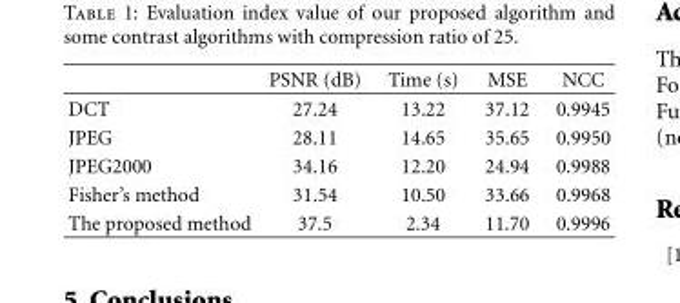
<table><thead><tr><td></td><td>PSNR (dB)</td><td>Time (s)</td><td>MSE</td><td>NCC</td></tr></thead><tbody><tr><td>DCT</td><td>27.24</td><td>13.22</td><td>37.12</td><td>0.9945</td></tr><tr><td>JPEG</td><td>28.11</td><td>14.65</td><td>35.65</td><td>0.9950</td></tr><tr><td>JPEG2000</td><td>34.16</td><td>12.20</td><td>24.94</td><td>0.9988</td></tr><tr><td>Fisher’s method</td><td>31.54</td><td>10.50</td><td>33.66</td><td>0.9968</td></tr><tr><td>The proposed method</td><td>37.5</td><td>2.34</td><td>11.70</td><td>0.9996</td></tr></tbody></table>